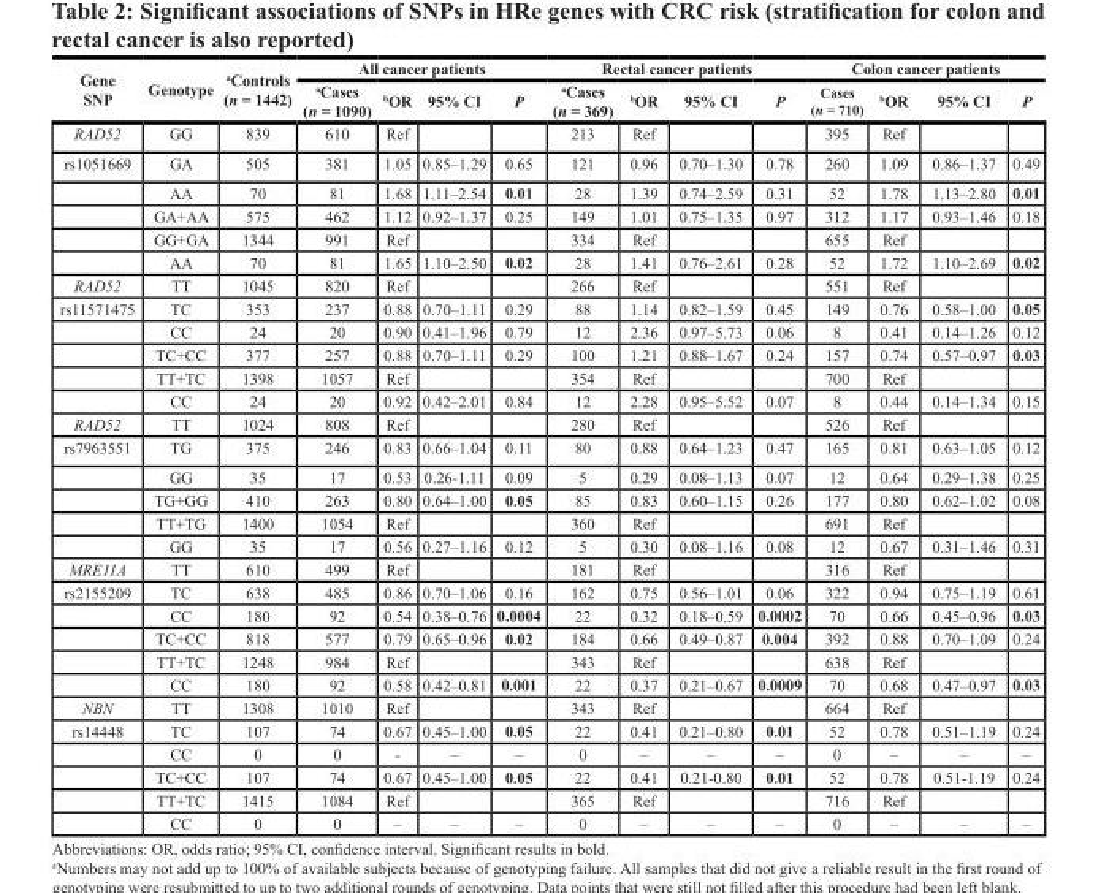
<table><thead><tr><td rowspan="2">Gene SNP</td><td rowspan="2">Genotype</td><td rowspan="2"><sup>a</sup>Controls (n = 1442)</td><td colspan="4">All cancer patients</td><td colspan="4">Rectal cancer patients</td><td colspan="4">Colon cancer patients</td></tr><tr><td><sup>a</sup>Cases (n = 1090)</td><td><sup>b</sup>OR</td><td>95% CI</td><td>P</td><td><sup>a</sup>Cases (n = 369)</td><td><sup>b</sup>OR</td><td>95% CI</td><td>P</td><td>Cases (n = 710)</td><td><sup>b</sup>OR</td><td>95% CI</td><td>P</td></tr></thead><tbody><tr><td>RAD52</td><td>GG</td><td>839</td><td>610</td><td>Ref</td><td></td><td></td><td>213</td><td>Ref</td><td></td><td></td><td>395</td><td>Ref</td><td></td><td></td></tr><tr><td rowspan="5">rs1051669</td><td>GA</td><td>505</td><td>381</td><td>1.05</td><td>0.85–1.29</td><td>0.65</td><td>121</td><td>0.96</td><td>0.70–1.30</td><td>0.78</td><td>260</td><td>1.09</td><td>0.86–1.37</td><td>0.49</td></tr><tr><td>AA</td><td>70</td><td>81</td><td>1.68</td><td>1.11–2.54</td><td>0.01</td><td>28</td><td>1.39</td><td>0.74–2.59</td><td>0.31</td><td>52</td><td>1.78</td><td>1.13–2.80</td><td>0.01</td></tr><tr><td>GA+AA</td><td>575</td><td>462</td><td>1.12</td><td>0.92–1.37</td><td>0.25</td><td>149</td><td>1.01</td><td>0.75–1.35</td><td>0.97</td><td>312</td><td>1.17</td><td>0.93–1.46</td><td>0.18</td></tr><tr><td>GG+GA</td><td>1344</td><td>991</td><td>Ref</td><td></td><td></td><td>334</td><td>Ref</td><td></td><td></td><td>655</td><td>Ref</td><td></td><td></td></tr><tr><td>AA</td><td>70</td><td>81</td><td>1.65</td><td>1.10–2.50</td><td>0.02</td><td>28</td><td>1.41</td><td>0.76–2.61</td><td>0.28</td><td>52</td><td>1.72</td><td>1.10–2.69</td><td>0.02</td></tr><tr><td>RAD52</td><td>TT</td><td>1045</td><td>820</td><td>Ref</td><td></td><td></td><td>266</td><td>Ref</td><td></td><td></td><td>551</td><td>Ref</td><td></td><td></td></tr><tr><td rowspan="5">rs11571475</td><td>TC</td><td>353</td><td>237</td><td>0.88</td><td>0.70–1.11</td><td>0.29</td><td>88</td><td>1.14</td><td>0.82–1.59</td><td>0.45</td><td>149</td><td>0.76</td><td>0.58–1.00</td><td>0.05</td></tr><tr><td>CC</td><td>24</td><td>20</td><td>0.90</td><td>0.41–1.96</td><td>0.79</td><td>12</td><td>2.36</td><td>0.97–5.73</td><td>0.06</td><td>8</td><td>0.41</td><td>0.14–1.26</td><td>0.12</td></tr><tr><td>TC+CC</td><td>377</td><td>257</td><td>0.88</td><td>0.70–1.11</td><td>0.29</td><td>100</td><td>1.21</td><td>0.88–1.67</td><td>0.24</td><td>157</td><td>0.74</td><td>0.57–0.97</td><td>0.03</td></tr><tr><td>TT+TC</td><td>1398</td><td>1057</td><td>Ref</td><td></td><td></td><td>354</td><td>Ref</td><td></td><td></td><td>700</td><td>Ref</td><td></td><td></td></tr><tr><td>CC</td><td>24</td><td>20</td><td>0.92</td><td>0.42–2.01</td><td>0.84</td><td>12</td><td>2.28</td><td>0.95–5.52</td><td>0.07</td><td>8</td><td>0.44</td><td>0.14–1.34</td><td>0.15</td></tr><tr><td>RAD52</td><td>TT</td><td>1024</td><td>808</td><td>Ref</td><td></td><td></td><td>280</td><td>Ref</td><td></td><td></td><td>526</td><td>Ref</td><td></td><td></td></tr><tr><td rowspan="5">rs7963551</td><td>TG</td><td>375</td><td>246</td><td>0.83</td><td>0.66–1.04</td><td>0.11</td><td>80</td><td>0.88</td><td>0.64–1.23</td><td>0.47</td><td>165</td><td>0.81</td><td>0.63–1.05</td><td>0.12</td></tr><tr><td>GG</td><td>35</td><td>17</td><td>0.53</td><td>0.26-1.11</td><td>0.09</td><td>5</td><td>0.29</td><td>0.08–1.13</td><td>0.07</td><td>12</td><td>0.64</td><td>0.29–1.38</td><td>0.25</td></tr><tr><td>TG+GG</td><td>410</td><td>263</td><td>0.80</td><td>0.64–1.00</td><td>0.05</td><td>85</td><td>0.83</td><td>0.60–1.15</td><td>0.26</td><td>177</td><td>0.80</td><td>0.62–1.02</td><td>0.08</td></tr><tr><td>TT+TG</td><td>1400</td><td>1054</td><td>Ref</td><td></td><td></td><td>360</td><td>Ref</td><td></td><td></td><td>691</td><td>Ref</td><td></td><td></td></tr><tr><td>GG</td><td>35</td><td>17</td><td>0.56</td><td>0.27–1.16</td><td>0.12</td><td>5</td><td>0.30</td><td>0.08–1.16</td><td>0.08</td><td>12</td><td>0.67</td><td>0.31–1.46</td><td>0.31</td></tr><tr><td>MRE11A</td><td>TT</td><td>610</td><td>499</td><td>Ref</td><td></td><td></td><td>181</td><td>Ref</td><td></td><td></td><td>316</td><td>Ref</td><td></td><td></td></tr><tr><td rowspan="5">rs2155209</td><td>TC</td><td>638</td><td>485</td><td>0.86</td><td>0.70–1.06</td><td>0.16</td><td>162</td><td>0.75</td><td>0.56–1.01</td><td>0.06</td><td>322</td><td>0.94</td><td>0.75–1.19</td><td>0.61</td></tr><tr><td>CC</td><td>180</td><td>92</td><td>0.54</td><td>0.38–0.76</td><td>0.0004</td><td>22</td><td>0.32</td><td>0.18–0.59</td><td>0.0002</td><td>70</td><td>0.66</td><td>0.45–0.96</td><td>0.03</td></tr><tr><td>TC+CC</td><td>818</td><td>577</td><td>0.79</td><td>0.65–0.96</td><td>0.02</td><td>184</td><td>0.66</td><td>0.49–0.87</td><td>0.004</td><td>392</td><td>0.88</td><td>0.70–1.09</td><td>0.24</td></tr><tr><td>TT+TC</td><td>1248</td><td>984</td><td>Ref</td><td></td><td></td><td>343</td><td>Ref</td><td></td><td></td><td>638</td><td>Ref</td><td></td><td></td></tr><tr><td>CC</td><td>180</td><td>92</td><td>0.58</td><td>0.42–0.81</td><td>0.001</td><td>22</td><td>0.37</td><td>0.21–0.67</td><td>0.0009</td><td>70</td><td>0.68</td><td>0.47–0.97</td><td>0.03</td></tr><tr><td>NBN</td><td>TT</td><td>1308</td><td>1010</td><td>Ref</td><td></td><td></td><td>343</td><td>Ref</td><td></td><td></td><td>664</td><td>Ref</td><td></td><td></td></tr><tr><td rowspan="5">rs14448</td><td>TC</td><td>107</td><td>74</td><td>0.67</td><td>0.45–1.00</td><td>0.05</td><td>22</td><td>0.41</td><td>0.21–0.80</td><td>0.01</td><td>52</td><td>0.78</td><td>0.51–1.19</td><td>0.24</td></tr><tr><td>CC</td><td>0</td><td>0</td><td>-</td><td>–</td><td>–</td><td>0</td><td>–</td><td>–</td><td>–</td><td>0</td><td>–</td><td>–</td><td>–</td></tr><tr><td>TC+CC</td><td>107</td><td>74</td><td>0.67</td><td>0.45–1.00</td><td>0.05</td><td>22</td><td>0.41</td><td>0.21-0.80</td><td>0.01</td><td>52</td><td>0.78</td><td>0.51-1.19</td><td>0.24</td></tr><tr><td>TT+TC</td><td>1415</td><td>1084</td><td>Ref</td><td></td><td></td><td>365</td><td>Ref</td><td></td><td></td><td>716</td><td>Ref</td><td></td><td></td></tr><tr><td>CC</td><td>0</td><td>0</td><td>–</td><td>–</td><td>–</td><td>0</td><td>–</td><td>–</td><td>–</td><td>0</td><td>–</td><td>–</td><td>–</td></tr></tbody></table>